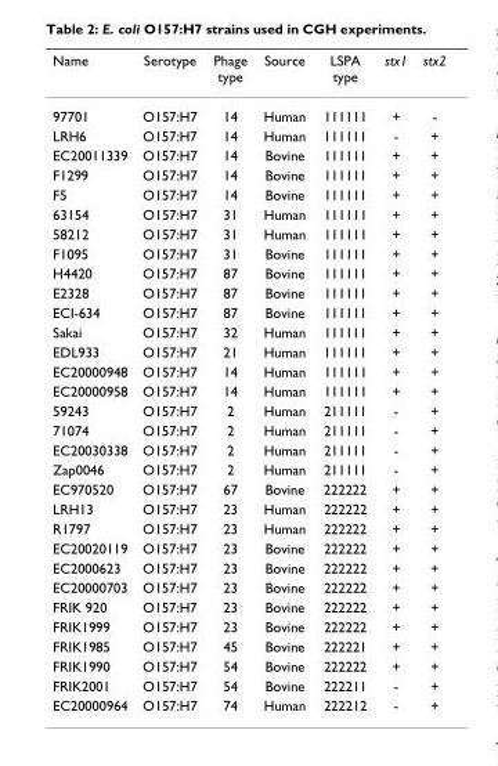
<table><thead><tr><td>Name</td><td>Serotype</td><td>Phage type</td><td>Source</td><td>LSPA type</td><td>stx1</td><td>stx2</td></tr></thead><tbody><tr><td>97701</td><td>O157:H7</td><td>14</td><td>Human</td><td>111111</td><td>+</td><td>-</td></tr><tr><td>LRH6</td><td>O157:H7</td><td>14</td><td>Human</td><td>111111</td><td>-</td><td>+</td></tr><tr><td>EC20011339</td><td>O157:H7</td><td>14</td><td>Bovine</td><td>111111</td><td>+</td><td>+</td></tr><tr><td>F1299</td><td>O157:H7</td><td>14</td><td>Bovine</td><td>111111</td><td>+</td><td>+</td></tr><tr><td>F5</td><td>O157:H7</td><td>14</td><td>Bovine</td><td>111111</td><td>+</td><td>+</td></tr><tr><td>63154</td><td>O157:H7</td><td>31</td><td>Human</td><td>111111</td><td>+</td><td>+</td></tr><tr><td>58212</td><td>O157:H7</td><td>31</td><td>Human</td><td>111111</td><td>+</td><td>+</td></tr><tr><td>F1095</td><td>O157:H7</td><td>31</td><td>Bovine</td><td>111111</td><td>+</td><td>+</td></tr><tr><td>H4420</td><td>O157:H7</td><td>87</td><td>Bovine</td><td>111111</td><td>+</td><td>+</td></tr><tr><td>E2328</td><td>O157:H7</td><td>87</td><td>Bovine</td><td>111111</td><td>+</td><td>+</td></tr><tr><td>ECI-634</td><td>O157:H7</td><td>87</td><td>Bovine</td><td>111111</td><td>+</td><td>+</td></tr><tr><td>Sakai</td><td>O157:H7</td><td>32</td><td>Human</td><td>111111</td><td>+</td><td>+</td></tr><tr><td>EDL933</td><td>O157:H7</td><td>21</td><td>Human</td><td>111111</td><td>+</td><td>+</td></tr><tr><td>EC20000948</td><td>O157:H7</td><td>14</td><td>Human</td><td>111111</td><td>+</td><td>+</td></tr><tr><td>EC20000958</td><td>O157:H7</td><td>14</td><td>Human</td><td>111111</td><td>+</td><td>+</td></tr><tr><td>59243</td><td>O157:H7</td><td>2</td><td>Human</td><td>211111</td><td>-</td><td>+</td></tr><tr><td>71074</td><td>O157:H7</td><td>2</td><td>Human</td><td>211111</td><td>-</td><td>+</td></tr><tr><td>EC20030338</td><td>O157:H7</td><td>2</td><td>Human</td><td>211111</td><td>-</td><td>+</td></tr><tr><td>Zap0046</td><td>O157:H7</td><td>2</td><td>Human</td><td>211111</td><td>-</td><td>+</td></tr><tr><td>EC970520</td><td>O157:H7</td><td>67</td><td>Bovine</td><td>222222</td><td>+</td><td>+</td></tr><tr><td>LRH13</td><td>O157:H7</td><td>23</td><td>Human</td><td>222222</td><td>+</td><td>+</td></tr><tr><td>R1797</td><td>O157:H7</td><td>23</td><td>Human</td><td>222222</td><td>+</td><td>+</td></tr><tr><td>EC20020119</td><td>O157:H7</td><td>23</td><td>Bovine</td><td>222222</td><td>+</td><td>+</td></tr><tr><td>EC2000623</td><td>O157:H7</td><td>23</td><td>Bovine</td><td>222222</td><td>+</td><td>+</td></tr><tr><td>EC20000703</td><td>O157:H7</td><td>23</td><td>Bovine</td><td>222222</td><td>+</td><td>+</td></tr><tr><td>FRIK 920</td><td>O157:H7</td><td>23</td><td>Bovine</td><td>222222</td><td>+</td><td>+</td></tr><tr><td>FRIK1999</td><td>O157:H7</td><td>23</td><td>Bovine</td><td>222222</td><td>+</td><td>+</td></tr><tr><td>FRIK1985</td><td>O157:H7</td><td>45</td><td>Bovine</td><td>222221</td><td>+</td><td>+</td></tr><tr><td>FRIK1990</td><td>O157:H7</td><td>54</td><td>Bovine</td><td>222222</td><td>+</td><td>+</td></tr><tr><td>FRIK2001</td><td>O157:H7</td><td>54</td><td>Bovine</td><td>222211</td><td>-</td><td>+</td></tr><tr><td>EC20000964</td><td>O157:H7</td><td>74</td><td>Human</td><td>222212</td><td>-</td><td>+</td></tr></tbody></table>